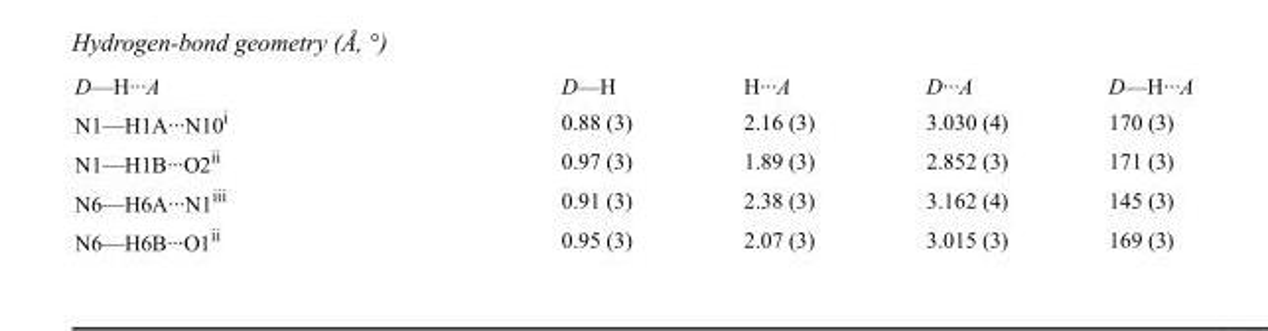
<table><tbody><tr><td>D—H···A</td><td>D—H</td><td>H···A</td><td>D···A</td><td>D—H···A</td></tr><tr><td>N1—H1A···N10<sup>i</sup></td><td>0.88 (3)</td><td>2.16 (3)</td><td>3.030 (4)</td><td>170 (3)</td></tr><tr><td>N1—H1B···O2<sup>ii</sup></td><td>0.97 (3)</td><td>1.89 (3)</td><td>2.852 (3)</td><td>171 (3)</td></tr><tr><td>N6—H6A···N1<sup>iii</sup></td><td>0.91 (3)</td><td>2.38 (3)</td><td>3.162 (4)</td><td>145 (3)</td></tr><tr><td>N6—H6B···O1<sup>ii</sup></td><td>0.95 (3)</td><td>2.07 (3)</td><td>3.015 (3)</td><td>169 (3)</td></tr></tbody></table>